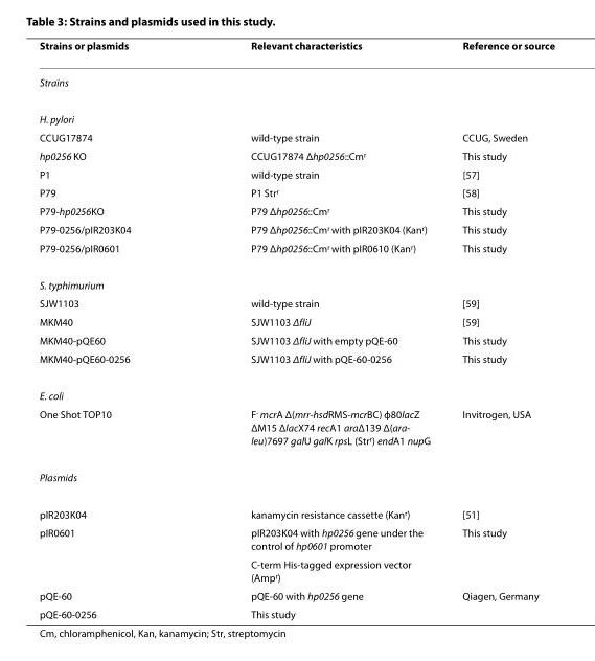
<table><thead><tr><td>Strains or plasmids</td><td>Relevant characteristics</td><td>Reference or source</td></tr></thead><tbody><tr><td colspan="3">Strains</td></tr><tr><td colspan="3">H. pylori</td></tr><tr><td>CCUG17874</td><td>wild-type strain</td><td>CCUG, Sweden</td></tr><tr><td>hp0256 KO</td><td>CCUG17874 Δhp0256::Cm<sup>r</sup></td><td>This study</td></tr><tr><td>P1</td><td>wild-type strain</td><td>[57]</td></tr><tr><td>P79</td><td>P1 Str<sup>r</sup></td><td>[58]</td></tr><tr><td>P79-hp0256KO</td><td>P79 Δhp0256::Cm<sup>r</sup></td><td>This study</td></tr><tr><td>P79-0256/pIR203K04</td><td>P79 Δhp0256::Cm<sup>r</sup> with pIR203K04 (Kan<sup>r</sup>)</td><td>This study</td></tr><tr><td>P79-0256/pIR0601</td><td>P79 Δhp0256::Cm<sup>r</sup> with pIR0610 (Kan<sup>r</sup>)</td><td>This study</td></tr><tr><td colspan="3">S. typhimurium</td></tr><tr><td>SJW1103</td><td>wild-type strain</td><td>[59]</td></tr><tr><td>MKM40</td><td>SJW1103 ΔfliJ</td><td>[59]</td></tr><tr><td>MKM40-pQE60</td><td>SJW1103 ΔfliJ with empty pQE-60</td><td>This study</td></tr><tr><td>MKM40-pQE60-0256</td><td>SJW1103 ΔfliJ with pQE-60-0256</td><td>This study</td></tr><tr><td colspan="3">E. coli</td></tr><tr><td>One Shot TOP10</td><td>F<sup>-</sup> mcrA Δ(mrr-hsdRMS-mcrBC) ф80lacZ ΔM15 ΔlacX74 recA1 araΔ139 Δ(ara- leu)7697 galU galK rpsL (Str<sup>r</sup>) endA1 nupG</td><td>Invitrogen, USA</td></tr><tr><td colspan="3">Plasmids</td></tr><tr><td>pIR203K04</td><td>kanamycin resistance cassette (Kan<sup>r</sup>)</td><td>[51]</td></tr><tr><td rowspan="2">pIR0601</td><td>pIR203K04 with hp0256 gene under the control of hp0601 promoter</td><td>This study</td></tr><tr><td>C-term His-tagged expression vector (Amp<sup>r</sup>)</td><td></td></tr><tr><td>pQE-60</td><td>pQE-60 with hp0256 gene</td><td>Qiagen, Germany</td></tr><tr><td>pQE-60-0256</td><td>This study</td><td></td></tr></tbody></table>